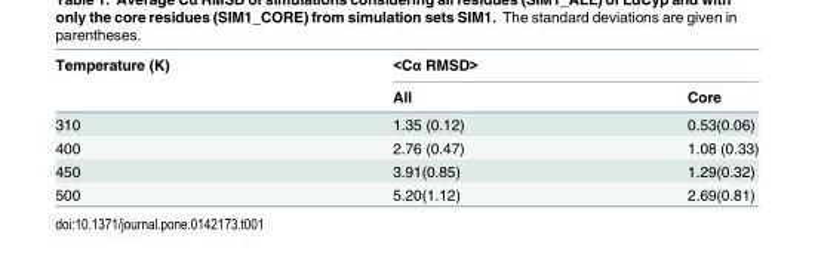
<table><thead><tr><td rowspan="2">Temperature (K)</td><td colspan="2">&lt;Cα RMSD&gt;</td></tr><tr><td>All</td><td>Core</td></tr></thead><tbody><tr><td>310</td><td>1.35 (0.12)</td><td>0.53(0.06)</td></tr><tr><td>400</td><td>2.76 (0.47)</td><td>1.08 (0.33)</td></tr><tr><td>450</td><td>3.91(0.85)</td><td>1.29(0.32)</td></tr><tr><td>500</td><td>5.20(1.12)</td><td>2.69(0.81)</td></tr></tbody></table>